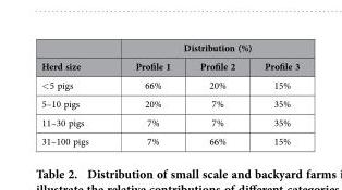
<table><thead><tr><td rowspan="2">Herd size</td><td colspan="3">Distribution (%)</td></tr><tr><td>Profile 1</td><td>Profile 2</td><td>Profile 3</td></tr></thead><tbody><tr><td>&lt; 5 pigs</td><td>66%</td><td>20%</td><td>15%</td></tr><tr><td>5–10 pigs</td><td>20%</td><td>7%</td><td>35%</td></tr><tr><td>11–30 pigs</td><td>7%</td><td>7%</td><td>35%</td></tr><tr><td>31–100 pigs</td><td>7%</td><td>66%</td><td>15%</td></tr></tbody></table>